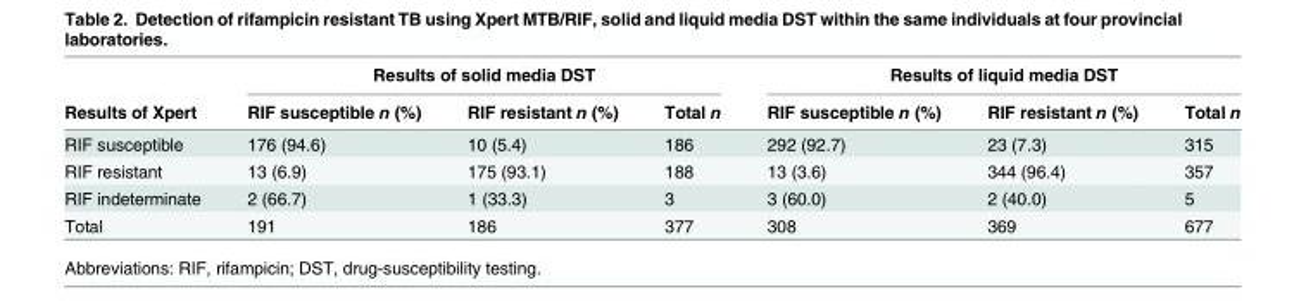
<table><thead><tr><td rowspan="2">Results of Xpert</td><td colspan="3">Results of solid media DST</td><td colspan="3">Results of liquid media DST</td></tr><tr><td>RIF susceptible n (%)</td><td>RIF resistant n (%)</td><td>Total n</td><td>RIF susceptible n (%)</td><td>RIF resistant n (%)</td><td>Total n</td></tr></thead><tbody><tr><td>RIF susceptible</td><td>176 (94.6)</td><td>10 (5.4)</td><td>186</td><td>292 (92.7)</td><td>23 (7.3)</td><td>315</td></tr><tr><td>RIF resistant</td><td>13 (6.9)</td><td>175 (93.1)</td><td>188</td><td>13 (3.6)</td><td>344 (96.4)</td><td>357</td></tr><tr><td>RIF indeterminate</td><td>2 (66.7)</td><td>1 (33.3)</td><td>3</td><td>3 (60.0)</td><td>2 (40.0)</td><td>5</td></tr><tr><td>Total</td><td>191</td><td>186</td><td>377</td><td>308</td><td>369</td><td>677</td></tr></tbody></table>